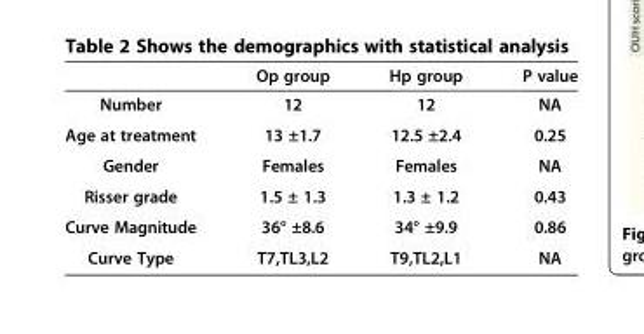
<table><thead><tr><td></td><td>Op group</td><td>Hp group</td><td>P value</td></tr></thead><tbody><tr><td>Number</td><td>12</td><td>12</td><td>NA</td></tr><tr><td>Age at treatment</td><td>13 ±1.7</td><td>12.5 ±2.4</td><td>0.25</td></tr><tr><td>Gender</td><td>Females</td><td>Females</td><td>NA</td></tr><tr><td>Risser grade</td><td>1.5 ± 1.3</td><td>1.3 ± 1.2</td><td>0.43</td></tr><tr><td>Curve Magnitude</td><td>36° ±8.6</td><td>34° ±9.9</td><td>0.86</td></tr><tr><td>Curve Type</td><td>T7,TL3,L2</td><td>T9,TL2,L1</td><td>NA</td></tr></tbody></table>